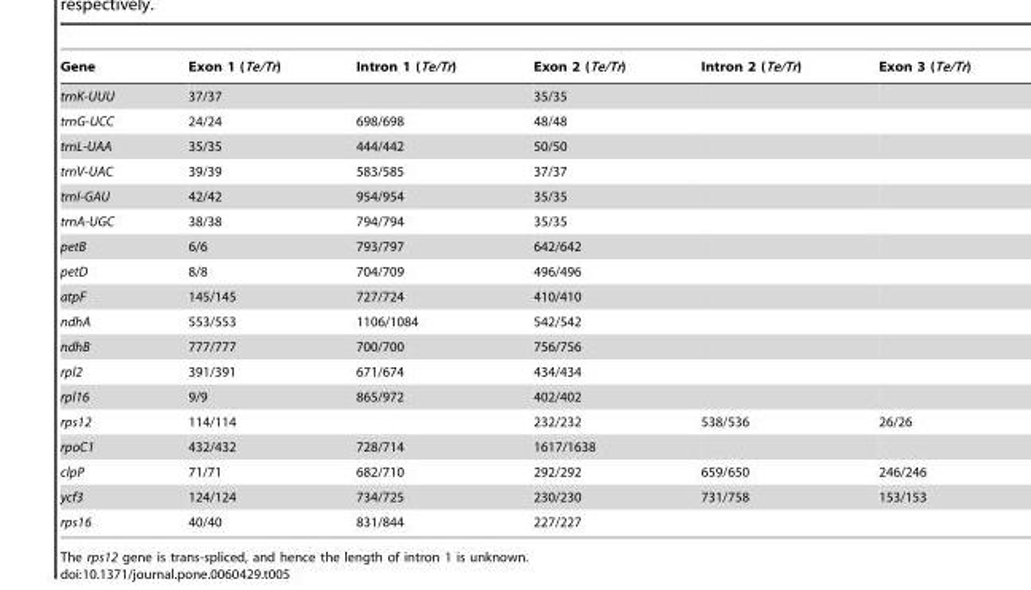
<table><thead><tr><td>Gene</td><td>Exon 1 (Te/Tr)</td><td>Intron 1 (Te/Tr)</td><td>Exon 2 (Te/Tr)</td><td>Intron 2 (Te/Tr)</td><td>Exon 3 (Te/Tr)</td></tr></thead><tbody><tr><td>trnK-UUU</td><td>37/37</td><td></td><td>35/35</td><td></td><td></td></tr><tr><td>trnG-UCC</td><td>24/24</td><td>698/698</td><td>48/48</td><td></td><td></td></tr><tr><td>trnL-UAA</td><td>35/35</td><td>444/442</td><td>50/50</td><td></td><td></td></tr><tr><td>trnV-UAC</td><td>39/39</td><td>583/585</td><td>37/37</td><td></td><td></td></tr><tr><td>trnI-GAU</td><td>42/42</td><td>954/954</td><td>35/35</td><td></td><td></td></tr><tr><td>trnA-UGC</td><td>38/38</td><td>794/794</td><td>35/35</td><td></td><td></td></tr><tr><td>petB</td><td>6/6</td><td>793/797</td><td>642/642</td><td></td><td></td></tr><tr><td>petD</td><td>8/8</td><td>704/709</td><td>496/496</td><td></td><td></td></tr><tr><td>atpF</td><td>145/145</td><td>727/724</td><td>410/410</td><td></td><td></td></tr><tr><td>ndhA</td><td>553/553</td><td>1106/1084</td><td>542/542</td><td></td><td></td></tr><tr><td>ndhB</td><td>777/777</td><td>700/700</td><td>756/756</td><td></td><td></td></tr><tr><td>rpl2</td><td>391/391</td><td>671/674</td><td>434/434</td><td></td><td></td></tr><tr><td>rpl16</td><td>9/9</td><td>865/972</td><td>402/402</td><td></td><td></td></tr><tr><td>rps12</td><td>114/114</td><td></td><td>232/232</td><td>538/536</td><td>26/26</td></tr><tr><td>rpoC1</td><td>432/432</td><td>728/714</td><td>1617/1638</td><td></td><td></td></tr><tr><td>clpP</td><td>71/71</td><td>682/710</td><td>292/292</td><td>659/650</td><td>246/246</td></tr><tr><td>ycf3</td><td>124/124</td><td>734/725</td><td>230/230</td><td>731/758</td><td>153/153</td></tr><tr><td>rps16</td><td>40/40</td><td>831/844</td><td>227/227</td><td></td><td></td></tr></tbody></table>